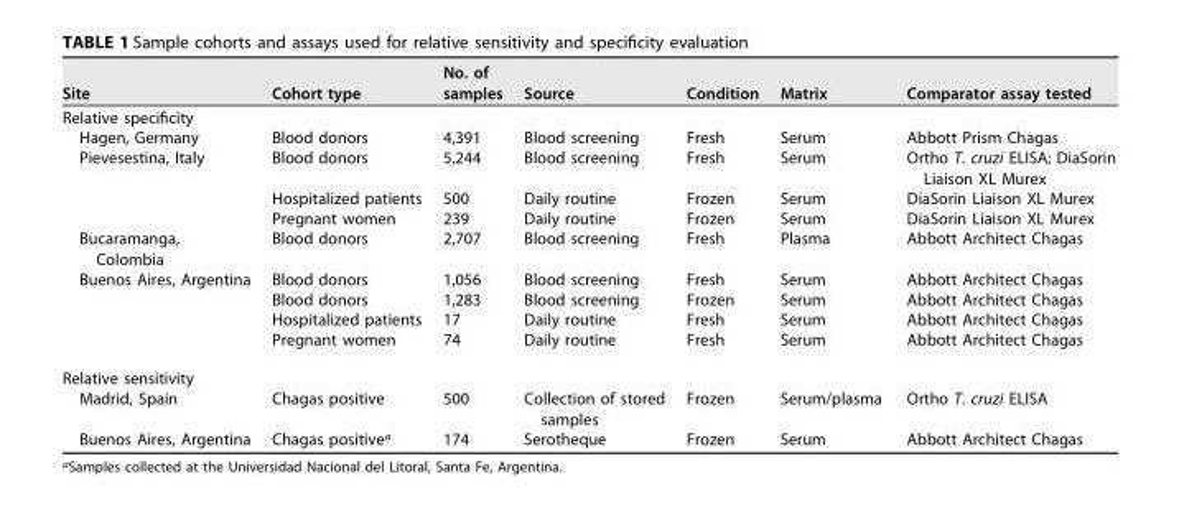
<table><thead><tr><td>Site</td><td>Cohort type</td><td>No. of samples</td><td>Source</td><td>Condition</td><td>Matrix</td><td>Comparator assay tested</td></tr></thead><tbody><tr><td colspan="7">Relative specificity</td></tr><tr><td>Hagen, Germany</td><td>Blood donors</td><td>4,391</td><td>Blood screening</td><td>Fresh</td><td>Serum</td><td>Abbott Prism Chagas</td></tr><tr><td rowspan="3">Pievesestina, Italy</td><td>Blood donors</td><td>5,244</td><td>Blood screening</td><td>Fresh</td><td>Serum</td><td>Ortho T. cruzi ELISA; DiaSorin Liaison XL Murex</td></tr><tr><td>Hospitalized patients</td><td>500</td><td>Daily routine</td><td>Frozen</td><td>Serum</td><td>DiaSorin Liaison XL Murex</td></tr><tr><td>Pregnant women</td><td>239</td><td>Daily routine</td><td>Frozen</td><td>Serum</td><td>DiaSorin Liaison XL Murex</td></tr><tr><td>Bucaramanga, Colombia</td><td>Blood donors</td><td>2,707</td><td>Blood screening</td><td>Fresh</td><td>Plasma</td><td>Abbott Architect Chagas</td></tr><tr><td rowspan="4">Buenos Aires, Argentina</td><td>Blood donors</td><td>1,056</td><td>Blood screening</td><td>Fresh</td><td>Serum</td><td>Abbott Architect Chagas</td></tr><tr><td>Blood donors</td><td>1,283</td><td>Blood screening</td><td>Frozen</td><td>Serum</td><td>Abbott Architect Chagas</td></tr><tr><td>Hospitalized patients</td><td>17</td><td>Daily routine</td><td>Fresh</td><td>Serum</td><td>Abbott Architect Chagas</td></tr><tr><td>Pregnant women</td><td>74</td><td>Daily routine</td><td>Fresh</td><td>Serum</td><td>Abbott Architect Chagas</td></tr><tr><td colspan="7">Relative sensitivity</td></tr><tr><td>Madrid, Spain</td><td>Chagas positive</td><td>500</td><td>Collection of stored samples</td><td>Frozen</td><td>Serum/plasma</td><td>Ortho T. cruzi ELISA</td></tr><tr><td>Buenos Aires, Argentina</td><td>Chagas positive<sup>a</sup></td><td>174</td><td>Serotheque</td><td>Frozen</td><td>Serum</td><td>Abbott Architect Chagas</td></tr></tbody></table>